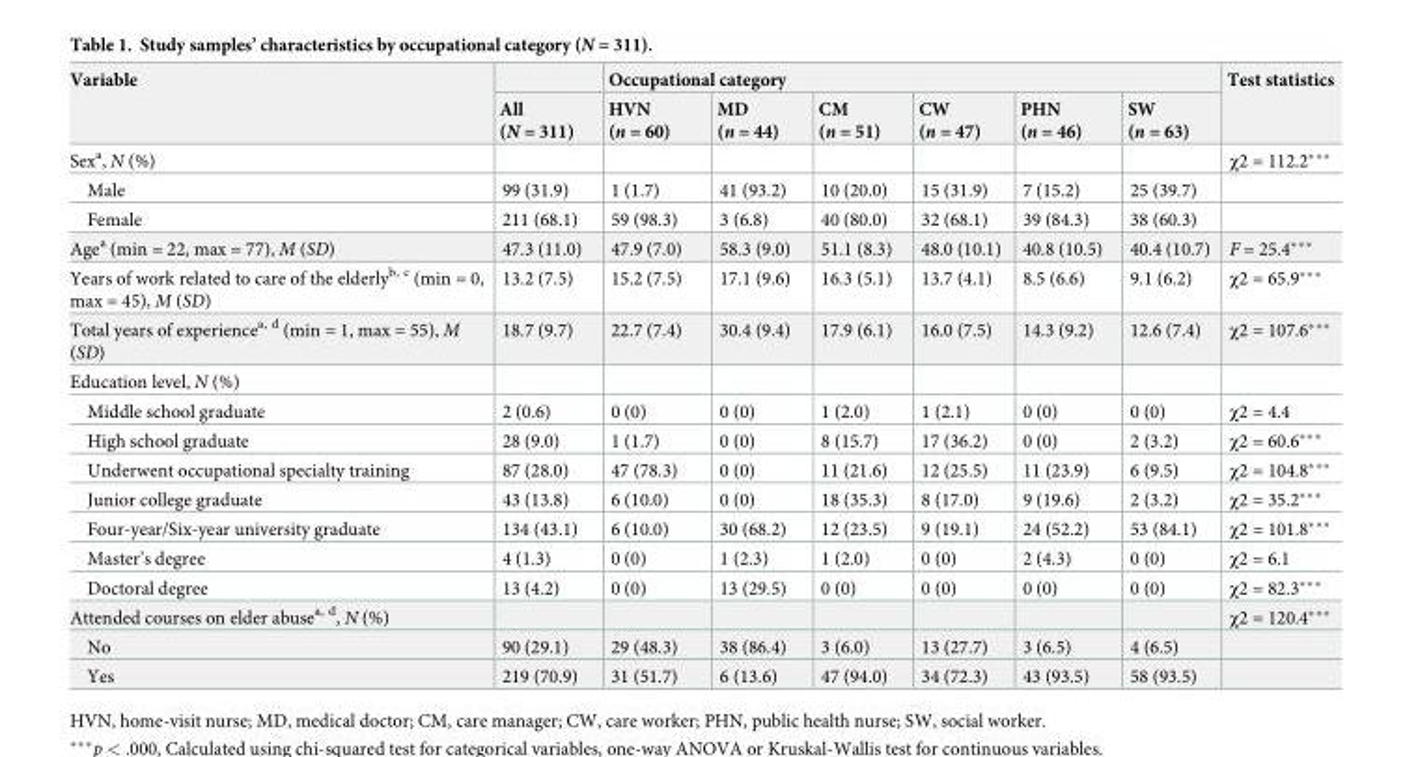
<table><thead><tr><td rowspan="2">Variable</td><td rowspan="2">All (N = 311)</td><td colspan="6">Occupational category</td><td rowspan="2">Test statistics</td></tr><tr><td>HVN (n = 60)</td><td>MD (n = 44)</td><td>CM (n = 51)</td><td>CW (n = 47)</td><td>PHN (n = 46)</td><td>SW (n = 63)</td></tr></thead><tbody><tr><td>Sex<sup>a</sup>, N (%)</td><td></td><td></td><td></td><td></td><td></td><td></td><td></td><td>χ2 = 112.2***</td></tr><tr><td>Male</td><td>99 (31.9)</td><td>1 (1.7)</td><td>41 (93.2)</td><td>10 (20.0)</td><td>15 (31.9)</td><td>7 (15.2)</td><td>25 (39.7)</td><td></td></tr><tr><td>Female</td><td>211 (68.1)</td><td>59 (98.3)</td><td>3 (6.8)</td><td>40 (80.0)</td><td>32 (68.1)</td><td>39 (84.3)</td><td>38 (60.3)</td><td></td></tr><tr><td>Age<sup>a</sup> (min = 22, max = 77), M (SD)</td><td>47.3 (11.0)</td><td>47.9 (7.0)</td><td>58.3 (9.0)</td><td>51.1 (8.3)</td><td>48.0 (10.1)</td><td>40.8 (10.5)</td><td>40.4 (10.7)</td><td>F = 25.4***</td></tr><tr><td>Years of work related to care of the elderly<sup>b, c</sup> (min = 0, max = 45), M (SD)</td><td>13.2 (7.5)</td><td>15.2 (7.5)</td><td>17.1 (9.6)</td><td>16.3 (5.1)</td><td>13.7 (4.1)</td><td>8.5 (6.6)</td><td>9.1 (6.2)</td><td>χ2 = 65.9***</td></tr><tr><td>Total years of experience<sup>a, d</sup> (min = 1, max = 55), M (SD)</td><td>18.7 (9.7)</td><td>22.7 (7.4)</td><td>30.4 (9.4)</td><td>17.9 (6.1)</td><td>16.0 (7.5)</td><td>14.3 (9.2)</td><td>12.6 (7.4)</td><td>χ2 = 107.6***</td></tr><tr><td colspan="9">Education level, N (%)</td></tr><tr><td>Middle school graduate</td><td>2 (0.6)</td><td>0 (0)</td><td>0 (0)</td><td>1 (2.0)</td><td>1 (2.1)</td><td>0 (0)</td><td>0 (0)</td><td>χ2 = 4.4</td></tr><tr><td>High school graduate</td><td>28 (9.0)</td><td>1 (1.7)</td><td>0 (0)</td><td>8 (15.7)</td><td>17 (36.2)</td><td>0 (0)</td><td>2 (3.2)</td><td>χ2 = 60.6***</td></tr><tr><td>Underwent occupational specialty training</td><td>87 (28.0)</td><td>47 (78.3)</td><td>0 (0)</td><td>11 (21.6)</td><td>12 (25.5)</td><td>11 (23.9)</td><td>6 (9.5)</td><td>χ2 = 104.8***</td></tr><tr><td>Junior college graduate</td><td>43 (13.8)</td><td>6 (10.0)</td><td>0 (0)</td><td>18 (35.3)</td><td>8 (17.0)</td><td>9 (19.6)</td><td>2 (3.2)</td><td>χ2 = 35.2***</td></tr><tr><td>Four-year/Six-year university graduate</td><td>134 (43.1)</td><td>6 (10.0)</td><td>30 (68.2)</td><td>12 (23.5)</td><td>9 (19.1)</td><td>24 (52.2)</td><td>53 (84.1)</td><td>χ2 = 101.8***</td></tr><tr><td>Master’s degree</td><td>4 (1.3)</td><td>0 (0)</td><td>1 (2.3)</td><td>1 (2.0)</td><td>0 (0)</td><td>2 (4.3)</td><td>0 (0)</td><td>χ2 = 6.1</td></tr><tr><td>Doctoral degree</td><td>13 (4.2)</td><td>0 (0)</td><td>13 (29.5)</td><td>0 (0)</td><td>0 (0)</td><td>0 (0)</td><td>0 (0)</td><td>χ2 = 82.3***</td></tr><tr><td>Attended courses on elder abuse<sup>a, d</sup>, N (%)</td><td></td><td></td><td></td><td></td><td></td><td></td><td></td><td>χ2 = 120.4***</td></tr><tr><td>No</td><td>90 (29.1)</td><td>29 (48.3)</td><td>38 (86.4)</td><td>3 (6.0)</td><td>13 (27.7)</td><td>3 (6.5)</td><td>4 (6.5)</td><td></td></tr><tr><td>Yes</td><td>219 (70.9)</td><td>31 (51.7)</td><td>6 (13.6)</td><td>47 (94.0)</td><td>34 (72.3)</td><td>43 (93.5)</td><td>58 (93.5)</td><td></td></tr></tbody></table>